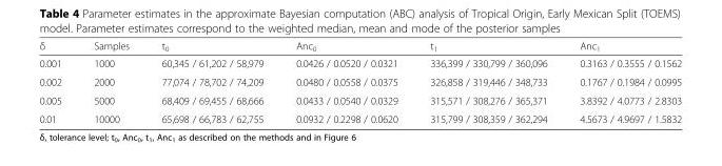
<table><thead><tr><td>δ</td><td>Samples</td><td>t<sub>0</sub></td><td>Anc<sub>0</sub></td><td>t<sub>1</sub></td><td>Anc<sub>1</sub></td></tr></thead><tbody><tr><td>0.001</td><td>1000</td><td>60,345 / 61,202 / 58,979</td><td>0.0426 / 0.0520 / 0.0321</td><td>336,399 / 330,799 / 360,096</td><td>0.3163 / 0.3555 / 0.1562</td></tr><tr><td>0.002</td><td>2000</td><td>77,074 / 78,702 / 74,209</td><td>0.0480 / 0.0558 / 0.0375</td><td>326,858 / 319,446 / 348,733</td><td>0.1767 / 0.1984 / 0.0995</td></tr><tr><td>0.005</td><td>5000</td><td>68,409 / 69,455 / 68,666</td><td>0.0433 / 0.0540 / 0.0329</td><td>315,571 / 308,276 / 365,371</td><td>3.8392 / 4.0773 / 2.8303</td></tr><tr><td>0.01</td><td>10000</td><td>65,698 / 66,783 / 62,755</td><td>0.0932 / 0.2298 / 0.0620</td><td>315,799 / 308,359 / 362,294</td><td>4.5673 / 4.9697 / 1.5832</td></tr></tbody></table>